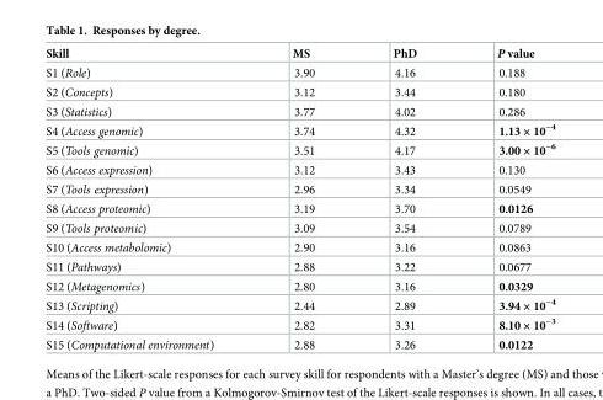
<table><thead><tr><td>Skill</td><td>MS</td><td>PhD</td><td>P value</td></tr></thead><tbody><tr><td>S1 (Role)</td><td>3.90</td><td>4.16</td><td>0.188</td></tr><tr><td>S2 (Concepts)</td><td>3.12</td><td>3.44</td><td>0.180</td></tr><tr><td>S3 (Statistics)</td><td>3.77</td><td>4.02</td><td>0.286</td></tr><tr><td>S4 (Access genomic)</td><td>3.74</td><td>4.32</td><td>1.13 × 10<sup>−4</sup></td></tr><tr><td>S5 (Tools genomic)</td><td>3.51</td><td>4.17</td><td>3.00 × 10<sup>−6</sup></td></tr><tr><td>S6 (Access expression)</td><td>3.12</td><td>3.43</td><td>0.130</td></tr><tr><td>S7 (Tools expression)</td><td>2.96</td><td>3.34</td><td>0.0549</td></tr><tr><td>S8 (Access proteomic)</td><td>3.19</td><td>3.70</td><td>0.0126</td></tr><tr><td>S9 (Tools proteomic)</td><td>3.09</td><td>3.54</td><td>0.0789</td></tr><tr><td>S10 (Access metabolomic)</td><td>2.90</td><td>3.16</td><td>0.0863</td></tr><tr><td>S11 (Pathways)</td><td>2.88</td><td>3.22</td><td>0.0677</td></tr><tr><td>S12 (Metagenomics)</td><td>2.80</td><td>3.16</td><td>0.0329</td></tr><tr><td>S13 (Scripting)</td><td>2.44</td><td>2.89</td><td>3.94 × 10<sup>−4</sup></td></tr><tr><td>S14 (Software)</td><td>2.82</td><td>3.31</td><td>8.10 × 10<sup>−3</sup></td></tr><tr><td>S15 (Computational environment)</td><td>2.88</td><td>3.26</td><td>0.0122</td></tr></tbody></table>